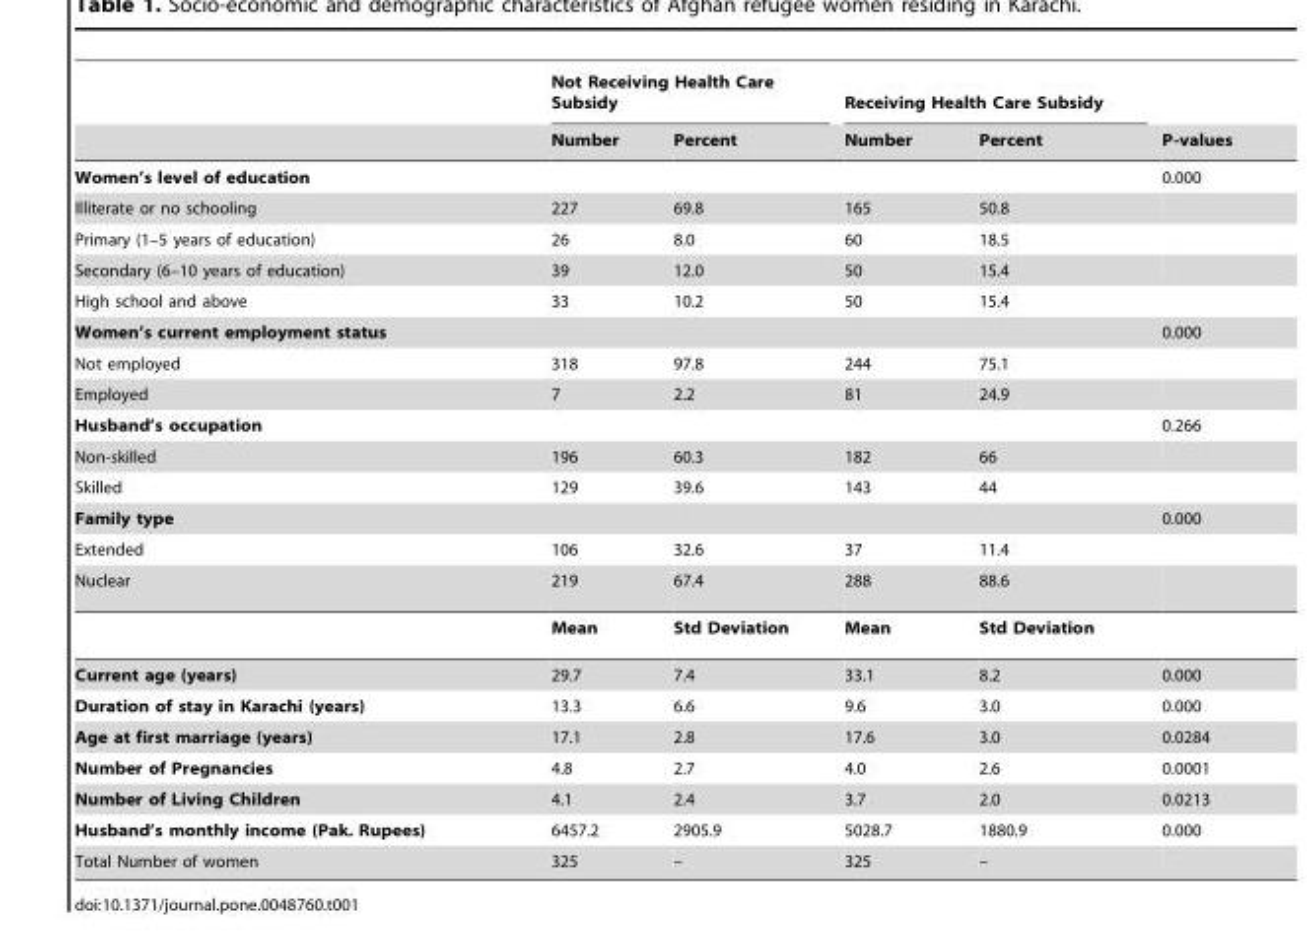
<table><thead><tr><td rowspan="2"></td><td colspan="2">Not Receiving Health Care Subsidy</td><td colspan="2">Receiving Health Care Subsidy</td><td rowspan="2">P-values</td></tr><tr><td>Number</td><td>Percent</td><td>Number</td><td>Percent</td></tr></thead><tbody><tr><td colspan="5">Women’s level of education</td><td>0.000</td></tr><tr><td>Illiterate or no schooling</td><td>227</td><td>69.8</td><td>165</td><td>50.8</td><td></td></tr><tr><td>Primary (1–5 years of education)</td><td>26</td><td>8.0</td><td>60</td><td>18.5</td><td></td></tr><tr><td>Secondary (6–10 years of education)</td><td>39</td><td>12.0</td><td>50</td><td>15.4</td><td></td></tr><tr><td>High school and above</td><td>33</td><td>10.2</td><td>50</td><td>15.4</td><td></td></tr><tr><td colspan="5">Women’s current employment status</td><td>0.000</td></tr><tr><td>Not employed</td><td>318</td><td>97.8</td><td>244</td><td>75.1</td><td></td></tr><tr><td>Employed</td><td>7</td><td>2.2</td><td>81</td><td>24.9</td><td></td></tr><tr><td colspan="5">Husband’s occupation</td><td>0.266</td></tr><tr><td>Non-skilled</td><td>196</td><td>60.3</td><td>182</td><td>66</td><td></td></tr><tr><td>Skilled</td><td>129</td><td>39.6</td><td>143</td><td>44</td><td></td></tr><tr><td colspan="5">Family type</td><td>0.000</td></tr><tr><td>Extended</td><td>106</td><td>32.6</td><td>37</td><td>11.4</td><td></td></tr><tr><td rowspan="2">Nuclear</td><td>219</td><td>67.4</td><td>288</td><td>88.6</td><td></td></tr><tr><td>Mean</td><td>Std Deviation</td><td>Mean</td><td>Std Deviation</td><td></td></tr><tr><td>Current age (years)</td><td>29.7</td><td>7.4</td><td>33.1</td><td>8.2</td><td>0.000</td></tr><tr><td>Duration of stay in Karachi (years)</td><td>13.3</td><td>6.6</td><td>9.6</td><td>3.0</td><td>0.000</td></tr><tr><td>Age at first marriage (years)</td><td>17.1</td><td>2.8</td><td>17.6</td><td>3.0</td><td>0.0284</td></tr><tr><td>Number of Pregnancies</td><td>4.8</td><td>2.7</td><td>4.0</td><td>2.6</td><td>0.0001</td></tr><tr><td>Number of Living Children</td><td>4.1</td><td>2.4</td><td>3.7</td><td>2.0</td><td>0.0213</td></tr><tr><td>Husband’s monthly income (Pak. Rupees)</td><td>6457.2</td><td>2905.9</td><td>5028.7</td><td>1880.9</td><td>0.000</td></tr><tr><td>Total Number of women</td><td>325</td><td>–</td><td>325</td><td>–</td><td></td></tr></tbody></table>